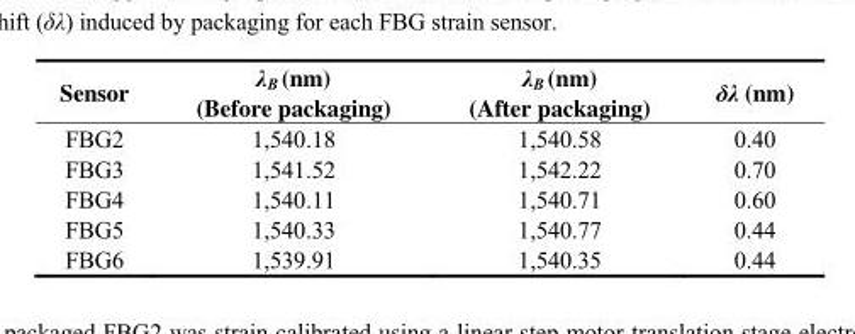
<table><thead><tr><td>Sensor</td><td>λ<sub>B</sub> (nm) (Before packaging)</td><td>λ<sub>B</sub> (nm) (After packaging)</td><td>δλ (nm)</td></tr></thead><tbody><tr><td>FBG2</td><td>1,540.18</td><td>1,540.58</td><td>0.40</td></tr><tr><td>FBG3</td><td>1,541.52</td><td>1,542.22</td><td>0.70</td></tr><tr><td>FBG4</td><td>1,540.11</td><td>1,540.71</td><td>0.60</td></tr><tr><td>FBG5</td><td>1,540.33</td><td>1,540.77</td><td>0.44</td></tr><tr><td>FBG6</td><td>1,539.91</td><td>1,540.35</td><td>0.44</td></tr></tbody></table>